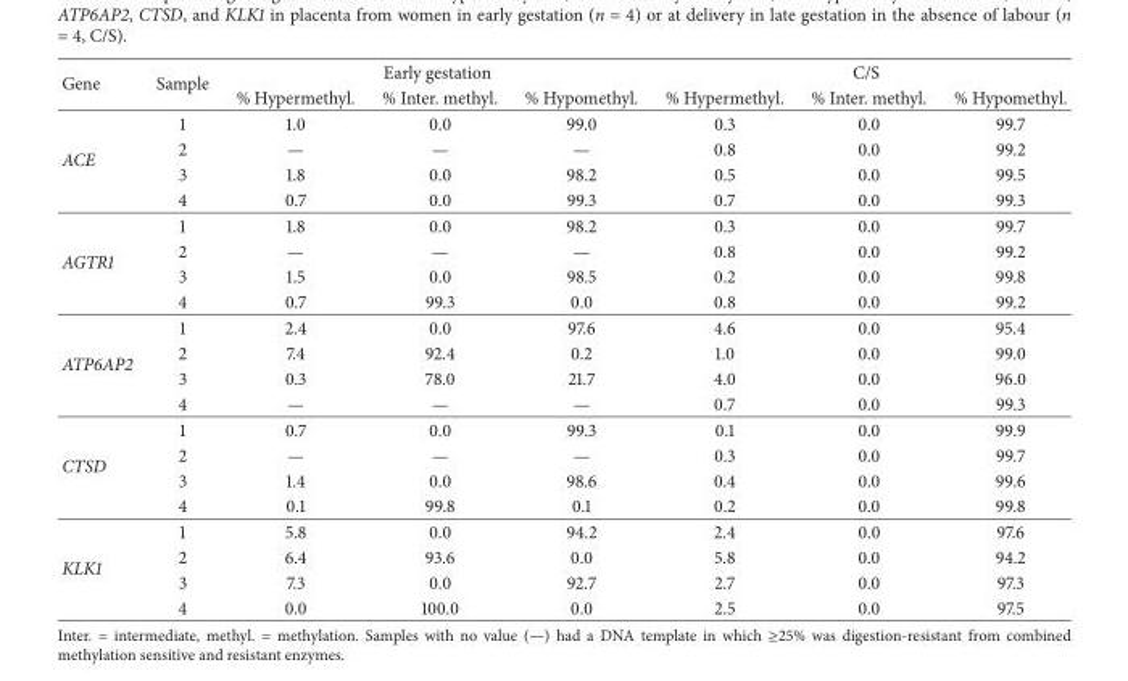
<table><thead><tr><td rowspan="2">Gene</td><td rowspan="2">Sample</td><td colspan="3">Early gestation</td><td colspan="3">C/S</td></tr><tr><td>% Hypermethyl.</td><td>% Inter. methyl.</td><td>% Hypomethyl.</td><td>% Hypermethyl.</td><td>% Inter. methyl.</td><td>% Hypomethyl.</td></tr></thead><tbody><tr><td rowspan="4">ACE</td><td>1</td><td>1.0</td><td>0.0</td><td>99.0</td><td>0.3</td><td>0.0</td><td>99.7</td></tr><tr><td>2</td><td>—</td><td>—</td><td>—</td><td>0.8</td><td>0.0</td><td>99.2</td></tr><tr><td>3</td><td>1.8</td><td>0.0</td><td>98.2</td><td>0.5</td><td>0.0</td><td>99.5</td></tr><tr><td>4</td><td>0.7</td><td>0.0</td><td>99.3</td><td>0.7</td><td>0.0</td><td>99.3</td></tr><tr><td rowspan="4">AGTR1</td><td>1</td><td>1.8</td><td>0.0</td><td>98.2</td><td>0.3</td><td>0.0</td><td>99.7</td></tr><tr><td>2</td><td>—</td><td>—</td><td>—</td><td>0.8</td><td>0.0</td><td>99.2</td></tr><tr><td>3</td><td>1.5</td><td>0.0</td><td>98.5</td><td>0.2</td><td>0.0</td><td>99.8</td></tr><tr><td>4</td><td>0.7</td><td>99.3</td><td>0.0</td><td>0.8</td><td>0.0</td><td>99.2</td></tr><tr><td rowspan="4">ATP6AP2</td><td>1</td><td>2.4</td><td>0.0</td><td>97.6</td><td>4.6</td><td>0.0</td><td>95.4</td></tr><tr><td>2</td><td>7.4</td><td>92.4</td><td>0.2</td><td>1.0</td><td>0.0</td><td>99.0</td></tr><tr><td>3</td><td>0.3</td><td>78.0</td><td>21.7</td><td>4.0</td><td>0.0</td><td>96.0</td></tr><tr><td>4</td><td>—</td><td>—</td><td>—</td><td>0.7</td><td>0.0</td><td>99.3</td></tr><tr><td rowspan="4">CTSD</td><td>1</td><td>0.7</td><td>0.0</td><td>99.3</td><td>0.1</td><td>0.0</td><td>99.9</td></tr><tr><td>2</td><td>—</td><td>—</td><td>—</td><td>0.3</td><td>0.0</td><td>99.7</td></tr><tr><td>3</td><td>1.4</td><td>0.0</td><td>98.6</td><td>0.4</td><td>0.0</td><td>99.6</td></tr><tr><td>4</td><td>0.1</td><td>99.8</td><td>0.1</td><td>0.2</td><td>0.0</td><td>99.8</td></tr><tr><td rowspan="4">KLK1</td><td>1</td><td>5.8</td><td>0.0</td><td>94.2</td><td>2.4</td><td>0.0</td><td>97.6</td></tr><tr><td>2</td><td>6.4</td><td>93.6</td><td>0.0</td><td>5.8</td><td>0.0</td><td>94.2</td></tr><tr><td>3</td><td>7.3</td><td>0.0</td><td>92.7</td><td>2.7</td><td>0.0</td><td>97.3</td></tr><tr><td>4</td><td>0.0</td><td>100.0</td><td>0.0</td><td>2.5</td><td>0.0</td><td>97.5</td></tr></tbody></table>